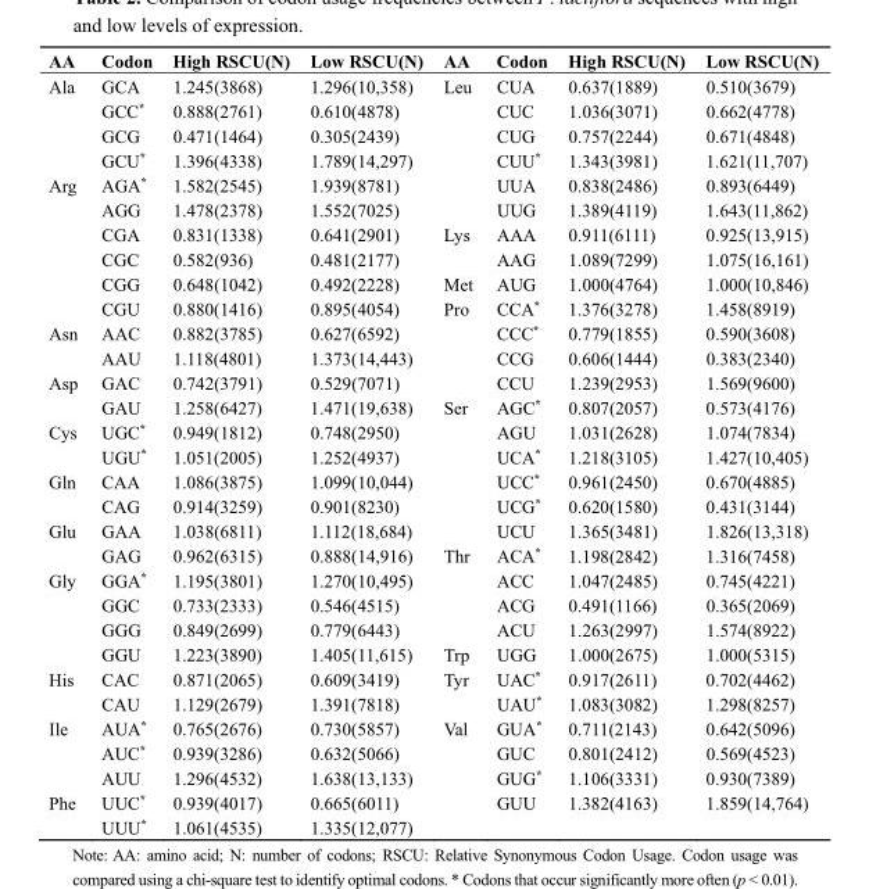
<table><thead><tr><td>AA</td><td>Codon</td><td>High RSCU(N)</td><td>Low RSCU(N)</td><td>AA</td><td>Codon</td><td>High RSCU(N)</td><td>Low RSCU(N)</td></tr></thead><tbody><tr><td rowspan="4">Ala</td><td>GCA</td><td>1.245(3868)</td><td>1.296(10,358)</td><td>Leu</td><td>CUA</td><td>0.637(1889)</td><td>0.510(3679)</td></tr><tr><td>GCC*</td><td>0.888(2761)</td><td>0.610(4878)</td><td></td><td>CUC</td><td>1.036(3071)</td><td>0.662(4778)</td></tr><tr><td>GCG</td><td>0.471(1464)</td><td>0.305(2439)</td><td></td><td>CUG</td><td>0.757(2244)</td><td>0.671(4848)</td></tr><tr><td>GCU*</td><td>1.396(4338)</td><td>1.789(14,297)</td><td></td><td>CUU*</td><td>1.343(3981)</td><td>1.621(11,707)</td></tr><tr><td rowspan="6">Arg</td><td>AGA*</td><td>1.582(2545)</td><td>1.939(8781)</td><td></td><td>UUA</td><td>0.838(2486)</td><td>0.893(6449)</td></tr><tr><td>AGG</td><td>1.478(2378)</td><td>1.552(7025)</td><td></td><td>UUG</td><td>1.389(4119)</td><td>1.643(11,862)</td></tr><tr><td>CGA</td><td>0.831(1338)</td><td>0.641(2901)</td><td>Lys</td><td>AAA</td><td>0.911(6111)</td><td>0.925(13,915)</td></tr><tr><td>CGC</td><td>0.582(936)</td><td>0.481(2177)</td><td></td><td>AAG</td><td>1.089(7299)</td><td>1.075(16,161)</td></tr><tr><td>CGG</td><td>0.648(1042)</td><td>0.492(2228)</td><td>Met</td><td>AUG</td><td>1.000(4764)</td><td>1.000(10,846)</td></tr><tr><td>CGU</td><td>0.880(1416)</td><td>0.895(4054)</td><td>Pro</td><td>CCA*</td><td>1.376(3278)</td><td>1.458(8919)</td></tr><tr><td rowspan="2">Asn</td><td>AAC</td><td>0.882(3785)</td><td>0.627(6592)</td><td></td><td>CCC*</td><td>0.779(1855)</td><td>0.590(3608)</td></tr><tr><td>AAU</td><td>1.118(4801)</td><td>1.373(14,443)</td><td></td><td>CCG</td><td>0.606(1444)</td><td>0.383(2340)</td></tr><tr><td rowspan="2">Asp</td><td>GAC</td><td>0.742(3791)</td><td>0.529(7071)</td><td></td><td>CCU</td><td>1.239(2953)</td><td>1.569(9600)</td></tr><tr><td>GAU</td><td>1.258(6427)</td><td>1.471(19,638)</td><td>Ser</td><td>AGC*</td><td>0.807(2057)</td><td>0.573(4176)</td></tr><tr><td rowspan="2">Cys</td><td>UGC*</td><td>0.949(1812)</td><td>0.748(2950)</td><td></td><td>AGU</td><td>1.031(2628)</td><td>1.074(7834)</td></tr><tr><td>UGU*</td><td>1.051(2005)</td><td>1.252(4937)</td><td></td><td>UCA*</td><td>1.218(3105)</td><td>1.427(10,405)</td></tr><tr><td rowspan="2">Gln</td><td>CAA</td><td>1.086(3875)</td><td>1.099(10,044)</td><td></td><td>UCC*</td><td>0.961(2450)</td><td>0.670(4885)</td></tr><tr><td>CAG</td><td>0.914(3259)</td><td>0.901(8230)</td><td></td><td>UCG*</td><td>0.620(1580)</td><td>0.431(3144)</td></tr><tr><td rowspan="2">Glu</td><td>GAA</td><td>1.038(6811)</td><td>1.112(18,684)</td><td></td><td>UCU</td><td>1.365(3481)</td><td>1.826(13,318)</td></tr><tr><td>GAG</td><td>0.962(6315)</td><td>0.888(14,916)</td><td>Thr</td><td>ACA*</td><td>1.198(2842)</td><td>1.316(7458)</td></tr><tr><td rowspan="4">Gly</td><td>GGA*</td><td>1.195(3801)</td><td>1.270(10,495)</td><td></td><td>ACC</td><td>1.047(2485)</td><td>0.745(4221)</td></tr><tr><td>GGC</td><td>0.733(2333)</td><td>0.546(4515)</td><td></td><td>ACG</td><td>0.491(1166)</td><td>0.365(2069)</td></tr><tr><td>GGG</td><td>0.849(2699)</td><td>0.779(6443)</td><td></td><td>ACU</td><td>1.263(2997)</td><td>1.574(8922)</td></tr><tr><td>GGU</td><td>1.223(3890)</td><td>1.405(11,615)</td><td>Trp</td><td>UGG</td><td>1.000(2675)</td><td>1.000(5315)</td></tr><tr><td rowspan="2">His</td><td>CAC</td><td>0.871(2065)</td><td>0.609(3419)</td><td>Tyr</td><td>UAC*</td><td>0.917(2611)</td><td>0.702(4462)</td></tr><tr><td>CAU</td><td>1.129(2679)</td><td>1.391(7818)</td><td></td><td>UAU*</td><td>1.083(3082)</td><td>1.298(8257)</td></tr><tr><td rowspan="3">Ile</td><td>AUA*</td><td>0.765(2676)</td><td>0.730(5857)</td><td>Val</td><td>GUA*</td><td>0.711(2143)</td><td>0.642(5096)</td></tr><tr><td>AUC*</td><td>0.939(3286)</td><td>0.632(5066)</td><td></td><td>GUC</td><td>0.801(2412)</td><td>0.569(4523)</td></tr><tr><td>AUU</td><td>1.296(4532)</td><td>1.638(13,133)</td><td></td><td>GUG*</td><td>1.106(3331)</td><td>0.930(7389)</td></tr><tr><td rowspan="2">Phe</td><td>UUC*</td><td>0.939(4017)</td><td>0.665(6011)</td><td></td><td>GUU</td><td>1.382(4163)</td><td>1.859(14,764)</td></tr><tr><td>UUU*</td><td>1.061(4535)</td><td>1.335(12,077)</td><td></td><td></td><td></td><td></td></tr></tbody></table>